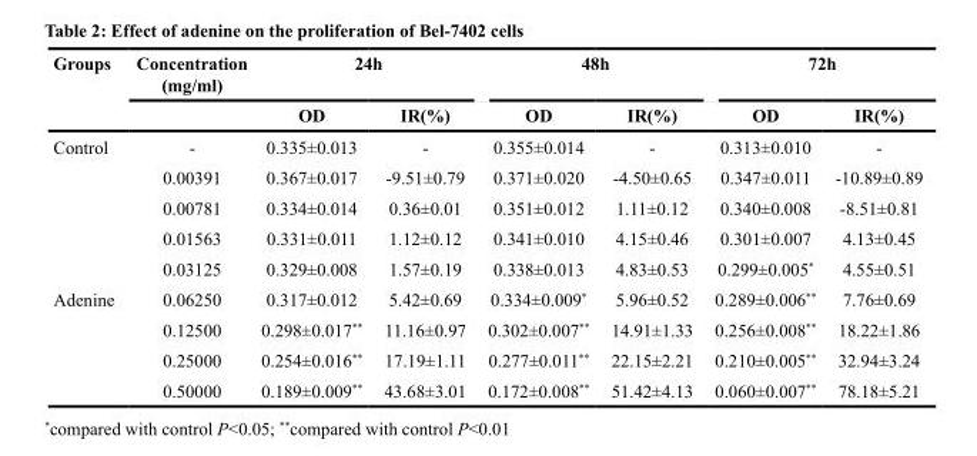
<table><thead><tr><td rowspan="2">Groups</td><td rowspan="2">Concentration (mg/ml)</td><td colspan="2">24h</td><td colspan="2">48h</td><td colspan="2">72h</td></tr><tr><td>OD</td><td>IR(%)</td><td>OD</td><td>IR(%)</td><td>OD</td><td>IR(%)</td></tr></thead><tbody><tr><td rowspan="5">Control</td><td>-</td><td>0.335±0.013</td><td>-</td><td>0.355±0.014</td><td>-</td><td>0.313±0.010</td><td>-</td></tr><tr><td>0.00391</td><td>0.367±0.017</td><td>-9.51±0.79</td><td>0.371±0.020</td><td>-4.50±0.65</td><td>0.347±0.011</td><td>-10.89±0.89</td></tr><tr><td>0.00781</td><td>0.334±0.014</td><td>0.36±0.01</td><td>0.351±0.012</td><td>1.11±0.12</td><td>0.340±0.008</td><td>-8.51±0.81</td></tr><tr><td>0.01563</td><td>0.331±0.011</td><td>1.12±0.12</td><td>0.341±0.010</td><td>4.15±0.46</td><td>0.301±0.007</td><td>4.13±0.45</td></tr><tr><td>0.03125</td><td>0.329±0.008</td><td>1.57±0.19</td><td>0.338±0.013</td><td>4.83±0.53</td><td>0.299±0.005*</td><td>4.55±0.51</td></tr><tr><td rowspan="4">Adenine</td><td>0.06250</td><td>0.317±0.012</td><td>5.42±0.69</td><td>0.334±0.009*</td><td>5.96±0.52</td><td>0.289±0.006**</td><td>7.76±0.69</td></tr><tr><td>0.12500</td><td>0.298±0.017**</td><td>11.16±0.97</td><td>0.302±0.007**</td><td>14.91±1.33</td><td>0.256±0.008**</td><td>18.22±1.86</td></tr><tr><td>0.25000</td><td>0.254±0.016**</td><td>17.19±1.11</td><td>0.277±0.011**</td><td>22.15±2.21</td><td>0.210±0.005**</td><td>32.94±3.24</td></tr><tr><td>0.50000</td><td>0.189±0.009**</td><td>43.68±3.01</td><td>0.172±0.008**</td><td>51.42±4.13</td><td>0.060±0.007**</td><td>78.18±5.21</td></tr></tbody></table>